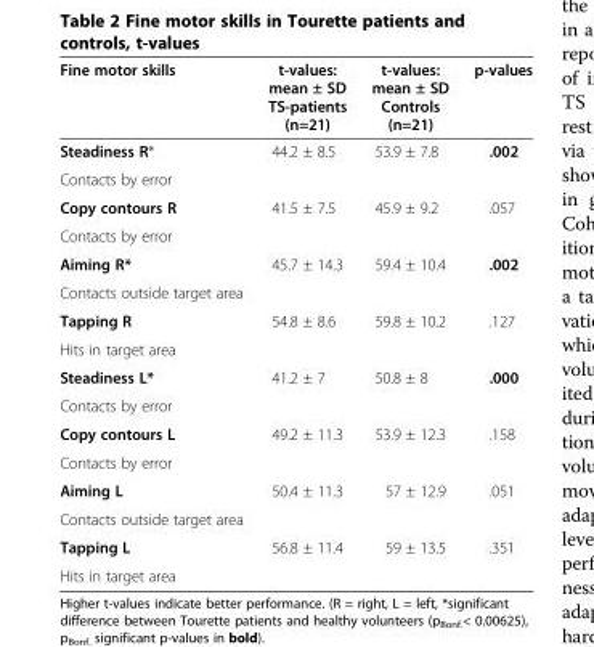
<table><thead><tr><td>Fine motor skills</td><td>t-values: mean ± SD TS-patients (n=21)</td><td>t-values: mean ± SD Controls (n=21)</td><td>p-values</td></tr></thead><tbody><tr><td>Steadiness R*</td><td>44.2 ± 8.5</td><td>53.9 ± 7.8</td><td>.002</td></tr><tr><td colspan="4">Contacts by error</td></tr><tr><td>Copy contours R</td><td>41.5 ± 7.5</td><td>45.9 ± 9.2</td><td>.057</td></tr><tr><td colspan="4">Contacts by error</td></tr><tr><td>Aiming R*</td><td>45.7 ± 14.3</td><td>59.4 ± 10.4</td><td>.002</td></tr><tr><td colspan="4">Contacts outside target area</td></tr><tr><td>Tapping R</td><td>54.8 ± 8.6</td><td>59.8 ± 10.2</td><td>.127</td></tr><tr><td colspan="4">Hits in target area</td></tr><tr><td>Steadiness L*</td><td>41.2 ± 7</td><td>50.8 ± 8</td><td>.000</td></tr><tr><td colspan="4">Contacts by error</td></tr><tr><td>Copy contours L</td><td>49.2 ± 11.3</td><td>53.9 ± 12.3</td><td>.158</td></tr><tr><td colspan="4">Contacts by error</td></tr><tr><td>Aiming L</td><td>50.4 ± 11.3</td><td>57 ± 12.9</td><td>.051</td></tr><tr><td colspan="4">Contacts outside target area</td></tr><tr><td>Tapping L</td><td>56.8 ± 11.4</td><td>59 ± 13.5</td><td>.351</td></tr><tr><td>Hits in target area</td><td></td><td></td><td></td></tr></tbody></table>